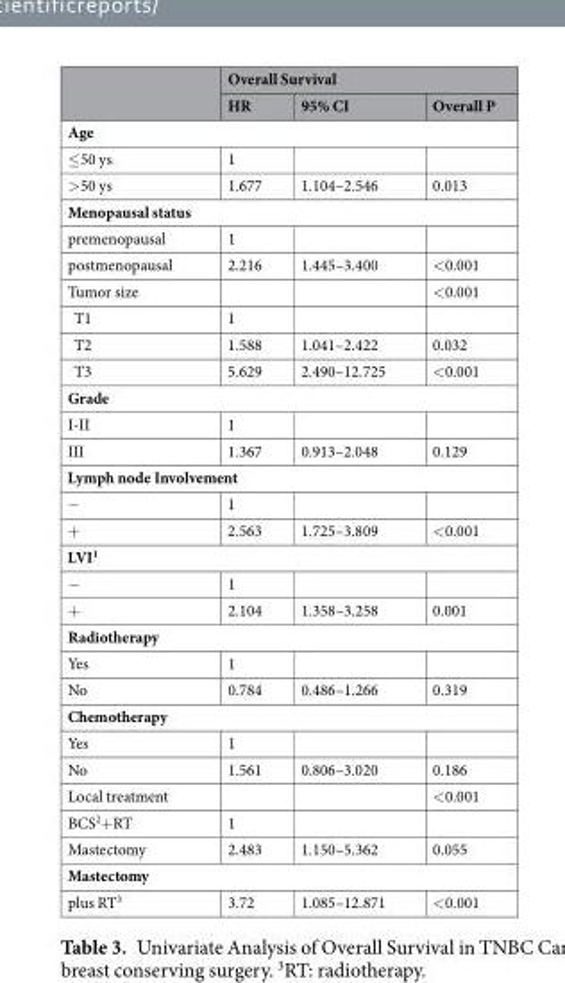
<table><thead><tr><td rowspan="2"></td><td colspan="3">Overall Survival</td></tr><tr><td>HR</td><td>95% CI</td><td>Overall P</td></tr></thead><tbody><tr><td colspan="4">Age</td></tr><tr><td>≤50 ys</td><td>1</td><td></td><td></td></tr><tr><td>&gt;50 ys</td><td>1.677</td><td>1.104–2.546</td><td>0.013</td></tr><tr><td colspan="4">Menopausal status</td></tr><tr><td>premenopausal</td><td>1</td><td></td><td></td></tr><tr><td>postmenopausal</td><td>2.216</td><td>1.445–3.400</td><td>&lt;0.001</td></tr><tr><td>Tumor size</td><td></td><td></td><td>&lt;0.001</td></tr><tr><td>T1</td><td>1</td><td></td><td></td></tr><tr><td>T2</td><td>1.588</td><td>1.041–2.422</td><td>0.032</td></tr><tr><td>T3</td><td>5.629</td><td>2.490–12.725</td><td>&lt;0.001</td></tr><tr><td colspan="4">Grade</td></tr><tr><td>I-II</td><td>1</td><td></td><td></td></tr><tr><td>III</td><td>1.367</td><td>0.913–2.048</td><td>0.129</td></tr><tr><td colspan="4">Lymph node Involvement</td></tr><tr><td>−</td><td>1</td><td></td><td></td></tr><tr><td>+</td><td>2.563</td><td>1.725–3.809</td><td>&lt;0.001</td></tr><tr><td colspan="4">LVI<sup>1</sup></td></tr><tr><td>−</td><td>1</td><td></td><td></td></tr><tr><td>+</td><td>2.104</td><td>1.358–3.258</td><td>0.001</td></tr><tr><td colspan="4">Radiotherapy</td></tr><tr><td>Yes</td><td>1</td><td></td><td></td></tr><tr><td>No</td><td>0.784</td><td>0.486–1.266</td><td>0.319</td></tr><tr><td colspan="4">Chemotherapy</td></tr><tr><td>Yes</td><td>1</td><td></td><td></td></tr><tr><td>No</td><td>1.561</td><td>0.806–3.020</td><td>0.186</td></tr><tr><td>Local treatment</td><td></td><td></td><td>&lt;0.001</td></tr><tr><td>BCS<sup>2</sup>+RT</td><td>1</td><td></td><td></td></tr><tr><td>Mastectomy</td><td>2.483</td><td>1.150–5.362</td><td>0.055</td></tr><tr><td colspan="4">Mastectomy</td></tr><tr><td>plus RT<sup>3</sup></td><td>3.72</td><td>1.085–12.871</td><td>&lt;0.001</td></tr></tbody></table>